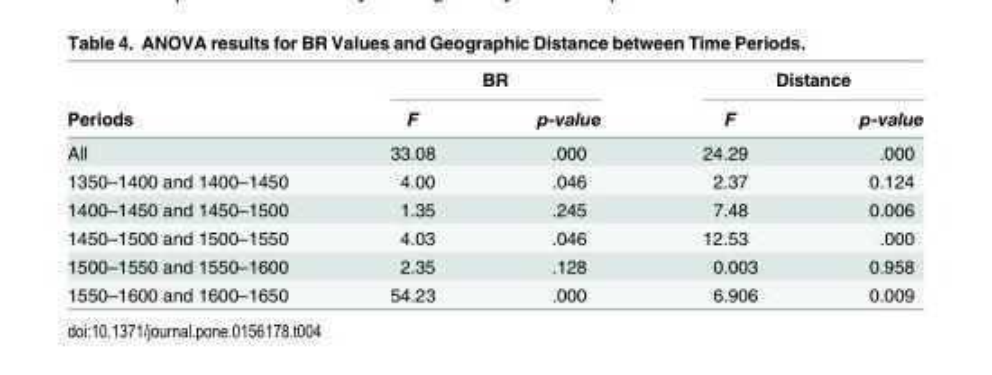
<table><thead><tr><td rowspan="2">Periods</td><td colspan="2">BR</td><td colspan="2">Distance</td></tr><tr><td>F</td><td>p-value</td><td>F</td><td>p-value</td></tr></thead><tbody><tr><td>All</td><td>33.08</td><td>.000</td><td>24.29</td><td>.000</td></tr><tr><td>1350–1400 and 1400–1450</td><td>4.00</td><td>.046</td><td>2.37</td><td>0.124</td></tr><tr><td>1400–1450 and 1450–1500</td><td>1.35</td><td>.245</td><td>7.48</td><td>0.006</td></tr><tr><td>1450–1500 and 1500–1550</td><td>4.03</td><td>.046</td><td>12.53</td><td>.000</td></tr><tr><td>1500–1550 and 1550–1600</td><td>2.35</td><td>.128</td><td>0.003</td><td>0.958</td></tr><tr><td>1550–1600 and 1600–1650</td><td>54.23</td><td>.000</td><td>6.906</td><td>0.009</td></tr></tbody></table>